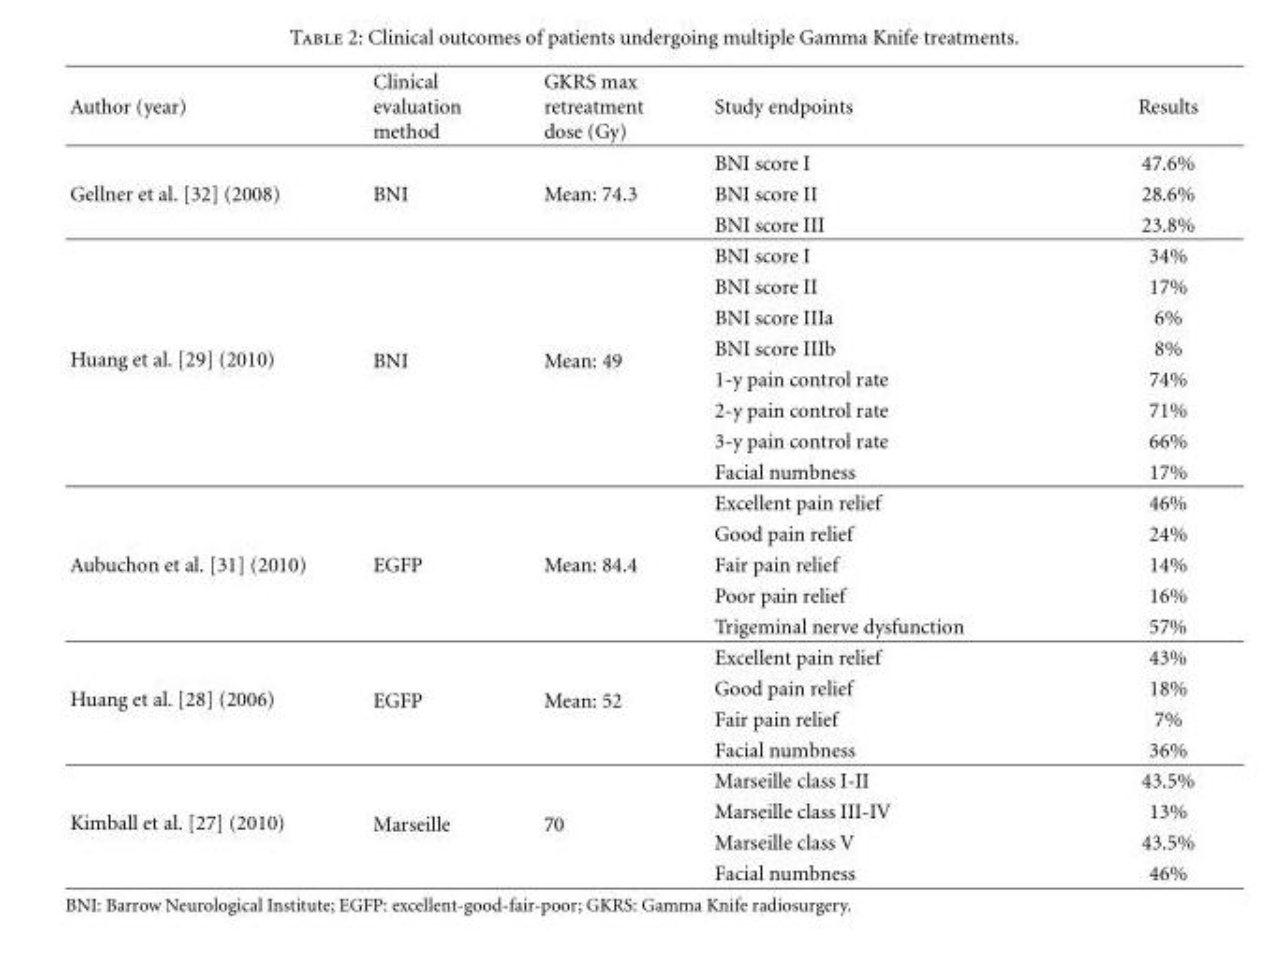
<table><thead><tr><td>Author (year)</td><td>Clinical evaluation method</td><td>GKRS max retreatment dose (Gy)</td><td>Study endpoints</td><td>Results</td></tr></thead><tbody><tr><td></td><td></td><td></td><td>BNI score I</td><td>47.6%</td></tr><tr><td rowspan="5">Gellner et al. [32] (2008)</td><td>BNI</td><td>Mean: 74.3</td><td>BNI score II</td><td>28.6%</td></tr><tr><td></td><td></td><td>BNI score III</td><td>23.8%</td></tr><tr><td></td><td></td><td>BNI score I</td><td>34%</td></tr><tr><td></td><td></td><td>BNI score II</td><td>17%</td></tr><tr><td></td><td></td><td>BNI score IIIa</td><td>6%</td></tr><tr><td rowspan="7">Huang et al. [29] (2010)</td><td rowspan="2">BNI</td><td rowspan="2">Mean: 49</td><td>BNI score IIIb</td><td>8%</td></tr><tr><td>1-y pain control rate</td><td>74%</td></tr><tr><td></td><td></td><td>2-y pain control rate</td><td>71%</td></tr><tr><td></td><td></td><td>3-y pain control rate</td><td>66%</td></tr><tr><td></td><td></td><td>Facial numbness</td><td>17%</td></tr><tr><td></td><td></td><td>Excellent pain relief</td><td>46%</td></tr><tr><td></td><td></td><td>Good pain relief</td><td>24%</td></tr><tr><td rowspan="4">Aubuchon et al. [31] (2010)</td><td>EGFP</td><td>Mean: 84.4</td><td>Fair pain relief</td><td>14%</td></tr><tr><td></td><td></td><td>Poor pain relief</td><td>16%</td></tr><tr><td></td><td></td><td>Trigeminal nerve dysfunction</td><td>57%</td></tr><tr><td></td><td></td><td>Excellent pain relief</td><td>43%</td></tr><tr><td rowspan="4">Huang et al. [28] (2006)</td><td rowspan="2">EGFP</td><td rowspan="2">Mean: 52</td><td>Good pain relief</td><td>18%</td></tr><tr><td>Fair pain relief</td><td>7%</td></tr><tr><td></td><td></td><td>Facial numbness</td><td>36%</td></tr><tr><td></td><td></td><td>Marseille class I-II</td><td>43.5%</td></tr><tr><td rowspan="3">Kimball et al. [27] (2010)</td><td rowspan="2">Marseille</td><td rowspan="2">70</td><td>Marseille class III-IV</td><td>13%</td></tr><tr><td>Marseille class V</td><td>43.5%</td></tr><tr><td></td><td></td><td>Facial numbness</td><td>46%</td></tr></tbody></table>